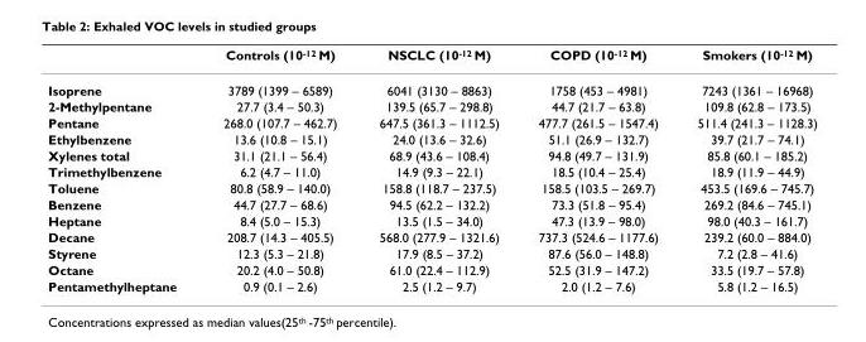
<table><thead><tr><td></td><td>Controls (10<sup>-12</sup> M)</td><td>NSCLC (10<sup>-12</sup> M)</td><td>COPD (10<sup>-12</sup> M)</td><td>Smokers (10<sup>-12</sup> M)</td></tr></thead><tbody><tr><td>Isoprene</td><td>3789 (1399 – 6589)</td><td>6041 (3130 – 8863)</td><td>1758 (453 – 4981)</td><td>7243 (1361 – 16968)</td></tr><tr><td>2-Methylpentane</td><td>27.7 (3.4 – 50.3)</td><td>139.5 (65.7 – 298.8)</td><td>44.7 (21.7 – 63.8)</td><td>109.8 (62.8 – 173.5)</td></tr><tr><td>Pentane</td><td>268.0 (107.7 – 462.7)</td><td>647.5 (361.3 – 1112.5)</td><td>477.7 (261.5 – 1547.4)</td><td>511.4 (241.3 – 1128.3)</td></tr><tr><td>Ethylbenzene</td><td>13.6 (10.8 – 15.1)</td><td>24.0 (13.6 – 32.6)</td><td>51.1 (26.9 – 132.7)</td><td>39.7 (21.7 – 74.1)</td></tr><tr><td>Xylenes total</td><td>31.1 (21.1 – 56.4)</td><td>68.9 (43.6 – 108.4)</td><td>94.8 (49.7 – 131.9)</td><td>85.8 (60.1 – 185.2)</td></tr><tr><td>Trimethylbenzene</td><td>6.2 (4.7 – 11.0)</td><td>14.9 (9.3 – 22.1)</td><td>18.5 (10.4 – 25.4)</td><td>18.9 (11.9 – 44.9)</td></tr><tr><td>Toluene</td><td>80.8 (58.9 – 140.0)</td><td>158.8 (118.7 – 237.5)</td><td>158.5 (103.5 – 269.7)</td><td>453.5 (169.6 – 745.7)</td></tr><tr><td>Benzene</td><td>44.7 (27.7 – 68.6)</td><td>94.5 (62.2 – 132.2)</td><td>73.3 (51.8 – 95.4)</td><td>269.2 (84.6 – 745.1)</td></tr><tr><td>Heptane</td><td>8.4 (5.0 – 15.3)</td><td>13.5 (1.5 – 34.0)</td><td>47.3 (13.9 – 98.0)</td><td>98.0 (40.3 – 161.7)</td></tr><tr><td>Decane</td><td>208.7 (14.3 – 405.5)</td><td>568.0 (277.9 – 1321.6)</td><td>737.3 (524.6 – 1177.6)</td><td>239.2 (60.0 – 884.0)</td></tr><tr><td>Styrene</td><td>12.3 (5.3 – 21.8)</td><td>17.9 (8.5 – 37.2)</td><td>87.6 (56.0 – 148.8)</td><td>7.2 (2.8 – 41.6)</td></tr><tr><td>Octane</td><td>20.2 (4.0 – 50.8)</td><td>61.0 (22.4 – 112.9)</td><td>52.5 (31.9 – 147.2)</td><td>33.5 (19.7 – 57.8)</td></tr><tr><td>Pentamethylheptane</td><td>0.9 (0.1 – 2.6)</td><td>2.5 (1.2 – 9.7)</td><td>2.0 (1.2 – 7.6)</td><td>5.8 (1.2 – 16.5)</td></tr></tbody></table>